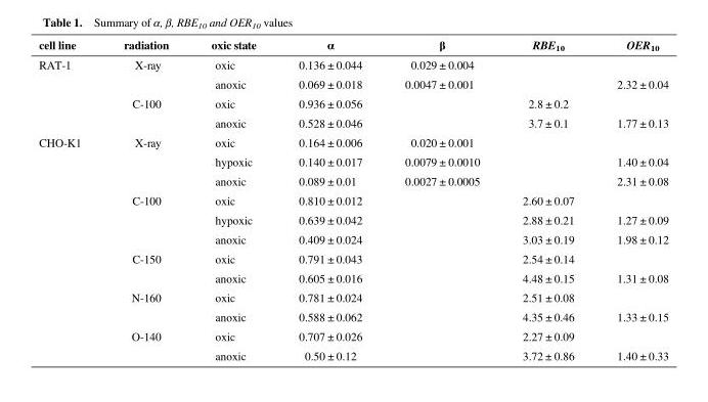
<table><thead><tr><td>cell line</td><td>radiation</td><td>oxic state</td><td>α</td><td>β</td><td>RBE<sub>10</sub></td><td>OER<sub>10</sub></td></tr></thead><tbody><tr><td rowspan="4">RAT-1</td><td>X-ray</td><td>oxic</td><td>0.136 ± 0.044</td><td>0.029 ± 0.004</td><td></td><td></td></tr><tr><td></td><td>anoxic</td><td>0.069 ± 0.018</td><td>0.0047 ± 0.001</td><td></td><td>2.32 ± 0.04</td></tr><tr><td>C-100</td><td>oxic</td><td>0.936 ± 0.056</td><td></td><td>2.8 ± 0.2</td><td></td></tr><tr><td></td><td>anoxic</td><td>0.528 ± 0.046</td><td></td><td>3.7 ± 0.1</td><td>1.77 ± 0.13</td></tr><tr><td rowspan="12">CHO-K1</td><td>X-ray</td><td>oxic</td><td>0.164 ± 0.006</td><td>0.020 ± 0.001</td><td></td><td></td></tr><tr><td></td><td>hypoxic</td><td>0.140 ± 0.017</td><td>0.0079 ± 0.0010</td><td></td><td>1.40 ± 0.04</td></tr><tr><td></td><td>anoxic</td><td>0.089 ± 0.01</td><td>0.0027 ± 0.0005</td><td></td><td>2.31 ± 0.08</td></tr><tr><td>C-100</td><td>oxic</td><td>0.810 ± 0.012</td><td></td><td>2.60 ± 0.07</td><td></td></tr><tr><td></td><td>hypoxic</td><td>0.639 ± 0.042</td><td></td><td>2.88 ± 0.21</td><td>1.27 ± 0.09</td></tr><tr><td></td><td>anoxic</td><td>0.409 ± 0.024</td><td></td><td>3.03 ± 0.19</td><td>1.98 ± 0.12</td></tr><tr><td>C-150</td><td>oxic</td><td>0.791 ± 0.043</td><td></td><td>2.54 ± 0.14</td><td></td></tr><tr><td></td><td>anoxic</td><td>0.605 ± 0.016</td><td></td><td>4.48 ± 0.15</td><td>1.31 ± 0.08</td></tr><tr><td>N-160</td><td>oxic</td><td>0.781 ± 0.024</td><td></td><td>2.51 ± 0.08</td><td></td></tr><tr><td></td><td>anoxic</td><td>0.588 ± 0.062</td><td></td><td>4.35 ± 0.46</td><td>1.33 ± 0.15</td></tr><tr><td>O-140</td><td>oxic</td><td>0.707 ± 0.026</td><td></td><td>2.27 ± 0.09</td><td></td></tr><tr><td></td><td>anoxic</td><td>0.50 ± 0.12</td><td></td><td>3.72 ± 0.86</td><td>1.40 ± 0.33</td></tr></tbody></table>